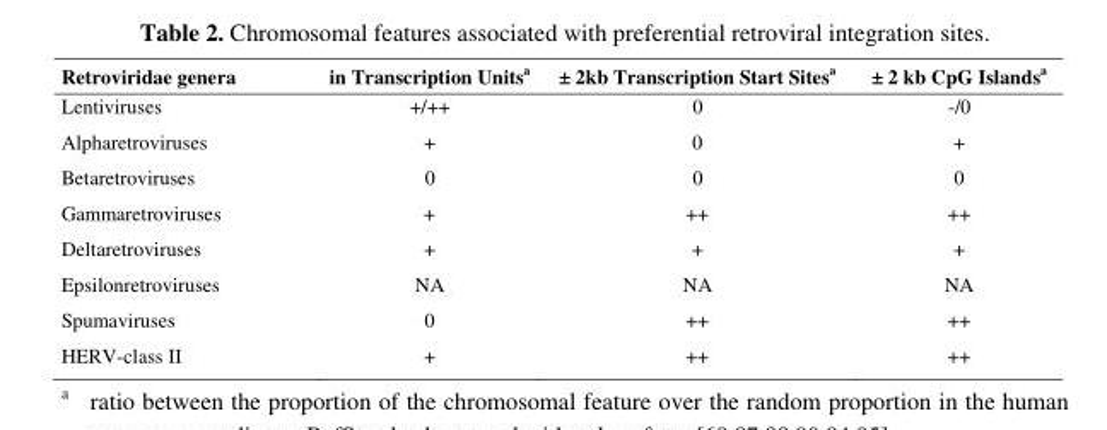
<table><thead><tr><td>Retroviridae genera</td><td>in Transcription Units<sup>a</sup></td><td>± 2kb Transcription Start Sites<sup>a</sup></td><td>± 2 kb CpG Islands<sup>a</sup></td></tr></thead><tbody><tr><td>Lentiviruses</td><td>+/++</td><td>0</td><td>-/0</td></tr><tr><td>Alpharetroviruses</td><td>+</td><td>0</td><td>+</td></tr><tr><td>Betaretroviruses</td><td>0</td><td>0</td><td>0</td></tr><tr><td>Gammaretroviruses</td><td>+</td><td>++</td><td>++</td></tr><tr><td>Deltaretroviruses</td><td>+</td><td>+</td><td>+</td></tr><tr><td>Epsilonretroviruses</td><td>NA</td><td>NA</td><td>NA</td></tr><tr><td>Spumaviruses</td><td>0</td><td>++</td><td>++</td></tr><tr><td>HERV-class II</td><td>+</td><td>++</td><td>++</td></tr></tbody></table>